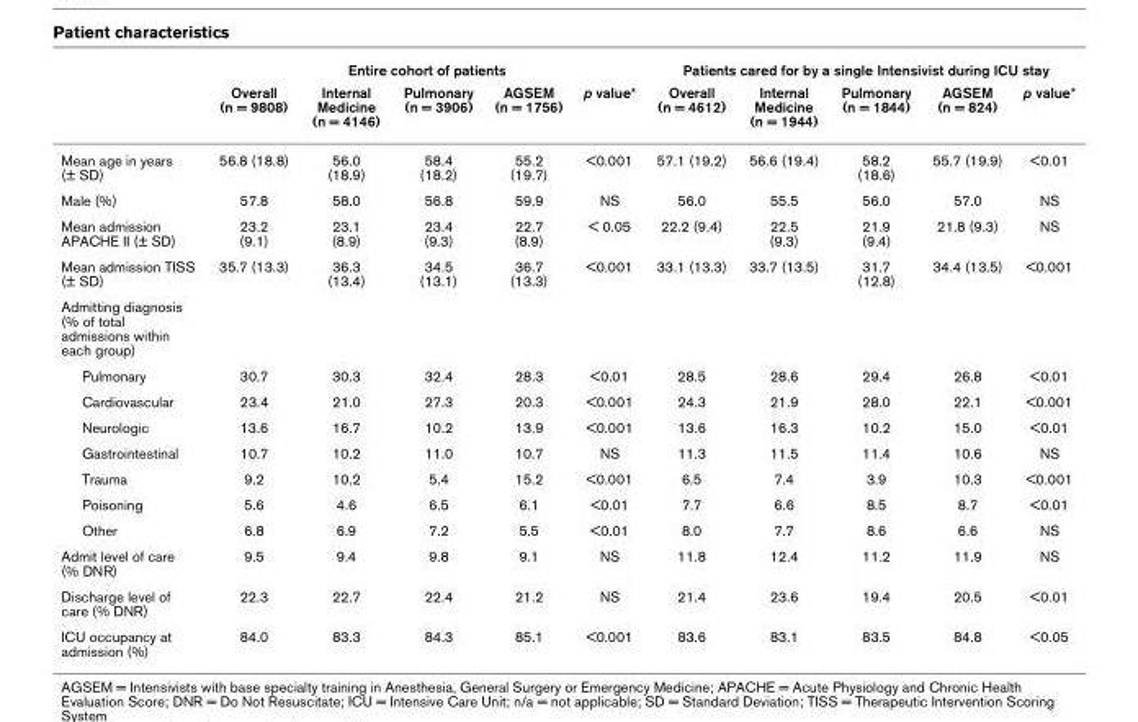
<table><thead><tr><td rowspan="2"></td><td colspan="5">Entire cohort of patients</td><td colspan="5">Patients cared for by a single Intensivist during ICU stay</td></tr><tr><td>Overall (n = 9808)</td><td>Internal Medicine (n = 4146)</td><td>Pulmonary (n = 3906)</td><td>AGSEM (n = 1756)</td><td>p value*</td><td>Overall (n = 4612)</td><td>Internal Medicine (n = 1944)</td><td>Pulmonary (n = 1844)</td><td>AGSEM (n = 824)</td><td>p value*</td></tr></thead><tbody><tr><td>Mean age in years (± SD)</td><td>56.8 (18.8)</td><td>56.0 (18.9)</td><td>58.4 (18.2)</td><td>55.2 (19.7)</td><td>&lt;0.001</td><td>57.1 (19.2)</td><td>56.6 (19.4)</td><td>58.2 (18.6)</td><td>55.7 (19.9)</td><td>&lt;0.01</td></tr><tr><td>Male (%)</td><td>57.8</td><td>58.0</td><td>56.8</td><td>59.9</td><td>NS</td><td>56.0</td><td>55.5</td><td>56.0</td><td>57.0</td><td>NS</td></tr><tr><td>Mean admission APACHE II (± SD)</td><td>23.2 (9.1)</td><td>23.1 (8.9)</td><td>23.4 (9.3)</td><td>22.7 (8.9)</td><td>&lt; 0.05</td><td>22.2 (9.4)</td><td>22.5 (9.3)</td><td>21.9 (9.4)</td><td>21.8 (9.3)</td><td>NS</td></tr><tr><td>Mean admission TISS (± SD)</td><td>35.7 (13.3)</td><td>36.3 (13.4)</td><td>34.5 (13.1)</td><td>36.7 (13.3)</td><td>&lt;0.001</td><td>33.1 (13.3)</td><td>33.7 (13.5)</td><td>31.7 (12.8)</td><td>34.4 (13.5)</td><td>&lt;0.001</td></tr><tr><td colspan="11">Admitting diagnosis (% of total admissions within each group)</td></tr><tr><td>Pulmonary</td><td>30.7</td><td>30.3</td><td>32.4</td><td>28.3</td><td>&lt;0.01</td><td>28.5</td><td>28.6</td><td>29.4</td><td>26.8</td><td>&lt;0.01</td></tr><tr><td>Cardiovascular</td><td>23.4</td><td>21.0</td><td>27.3</td><td>20.3</td><td>&lt;0.001</td><td>24.3</td><td>21.9</td><td>28.0</td><td>22.1</td><td>&lt;0.001</td></tr><tr><td>Neurologic</td><td>13.6</td><td>16.7</td><td>10.2</td><td>13.9</td><td>&lt;0.001</td><td>13.6</td><td>16.3</td><td>10.2</td><td>15.0</td><td>&lt;0.01</td></tr><tr><td>Gastrointestinal</td><td>10.7</td><td>10.2</td><td>11.0</td><td>10.7</td><td>NS</td><td>11.3</td><td>11.5</td><td>11.4</td><td>10.6</td><td>NS</td></tr><tr><td>Trauma</td><td>9.2</td><td>10.2</td><td>5.4</td><td>15.2</td><td>&lt;0.001</td><td>6.5</td><td>7.4</td><td>3.9</td><td>10.3</td><td>&lt;0.001</td></tr><tr><td>Poisoning</td><td>5.6</td><td>4.6</td><td>6.5</td><td>6.1</td><td>&lt;0.01</td><td>7.7</td><td>6.6</td><td>8.5</td><td>8.7</td><td>&lt;0.01</td></tr><tr><td>Other</td><td>6.8</td><td>6.9</td><td>7.2</td><td>5.5</td><td>&lt;0.01</td><td>8.0</td><td>7.7</td><td>8.6</td><td>6.6</td><td>NS</td></tr><tr><td>Admit level of care (% DNR)</td><td>9.5</td><td>9.4</td><td>9.8</td><td>9.1</td><td>NS</td><td>11.8</td><td>12.4</td><td>11.2</td><td>11.9</td><td>NS</td></tr><tr><td>Discharge level of care (% DNR)</td><td>22.3</td><td>22.7</td><td>22.4</td><td>21.2</td><td>NS</td><td>21.4</td><td>23.6</td><td>19.4</td><td>20.5</td><td>&lt;0.01</td></tr><tr><td>ICU occupancy at admission (%)</td><td>84.0</td><td>83.3</td><td>84.3</td><td>85.1</td><td>&lt;0.001</td><td>83.6</td><td>83.1</td><td>83.5</td><td>84.8</td><td>&lt;0.05</td></tr></tbody></table>